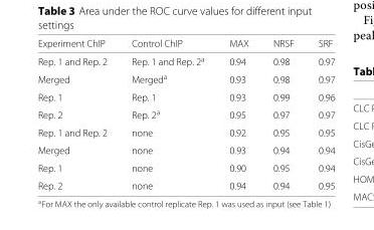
<table><thead><tr><td>Experiment ChIP</td><td>Control ChIP</td><td>MAX</td><td>NRSF</td><td>SRF</td></tr></thead><tbody><tr><td>Rep. 1 and Rep. 2</td><td>Rep. 1 and Rep. 2<sup>a</sup></td><td>0.94</td><td>0.98</td><td>0.97</td></tr><tr><td>Merged</td><td>Merged<sup>a</sup></td><td>0.93</td><td>0.98</td><td>0.97</td></tr><tr><td>Rep. 1</td><td>Rep. 1</td><td>0.93</td><td>0.99</td><td>0.96</td></tr><tr><td>Rep. 2</td><td>Rep. 2<sup>a</sup></td><td>0.95</td><td>0.97</td><td>0.97</td></tr><tr><td>Rep. 1 and Rep. 2</td><td>none</td><td>0.92</td><td>0.95</td><td>0.95</td></tr><tr><td>Merged</td><td>none</td><td>0.93</td><td>0.94</td><td>0.94</td></tr><tr><td>Rep. 1</td><td>none</td><td>0.90</td><td>0.95</td><td>0.94</td></tr><tr><td>Rep. 2</td><td>none</td><td>0.94</td><td>0.94</td><td>0.95</td></tr></tbody></table>